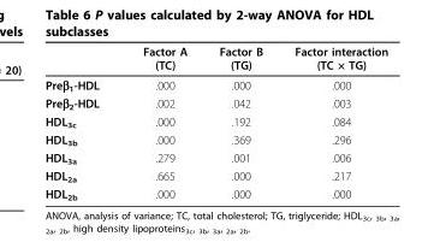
<table><thead><tr><td></td><td>Factor A (TC)</td><td>Factor B (TG)</td><td>Factor interaction (TC × TG)</td></tr></thead><tbody><tr><td>Preβ<sub>1</sub>-HDL</td><td>.000</td><td>.000</td><td>.000</td></tr><tr><td>Preβ<sub>2</sub>-HDL</td><td>.002</td><td>.042</td><td>.003</td></tr><tr><td>HDL<sub>3c</sub></td><td>.000</td><td>.192</td><td>.084</td></tr><tr><td>HDL<sub>3b</sub></td><td>.000</td><td>.369</td><td>.296</td></tr><tr><td>HDL<sub>3a</sub></td><td>.279</td><td>.001</td><td>.006</td></tr><tr><td>HDL<sub>2a</sub></td><td>.665</td><td>.000</td><td>.217</td></tr><tr><td>HDL<sub>2b</sub></td><td>.000</td><td>.000</td><td>.000</td></tr></tbody></table>